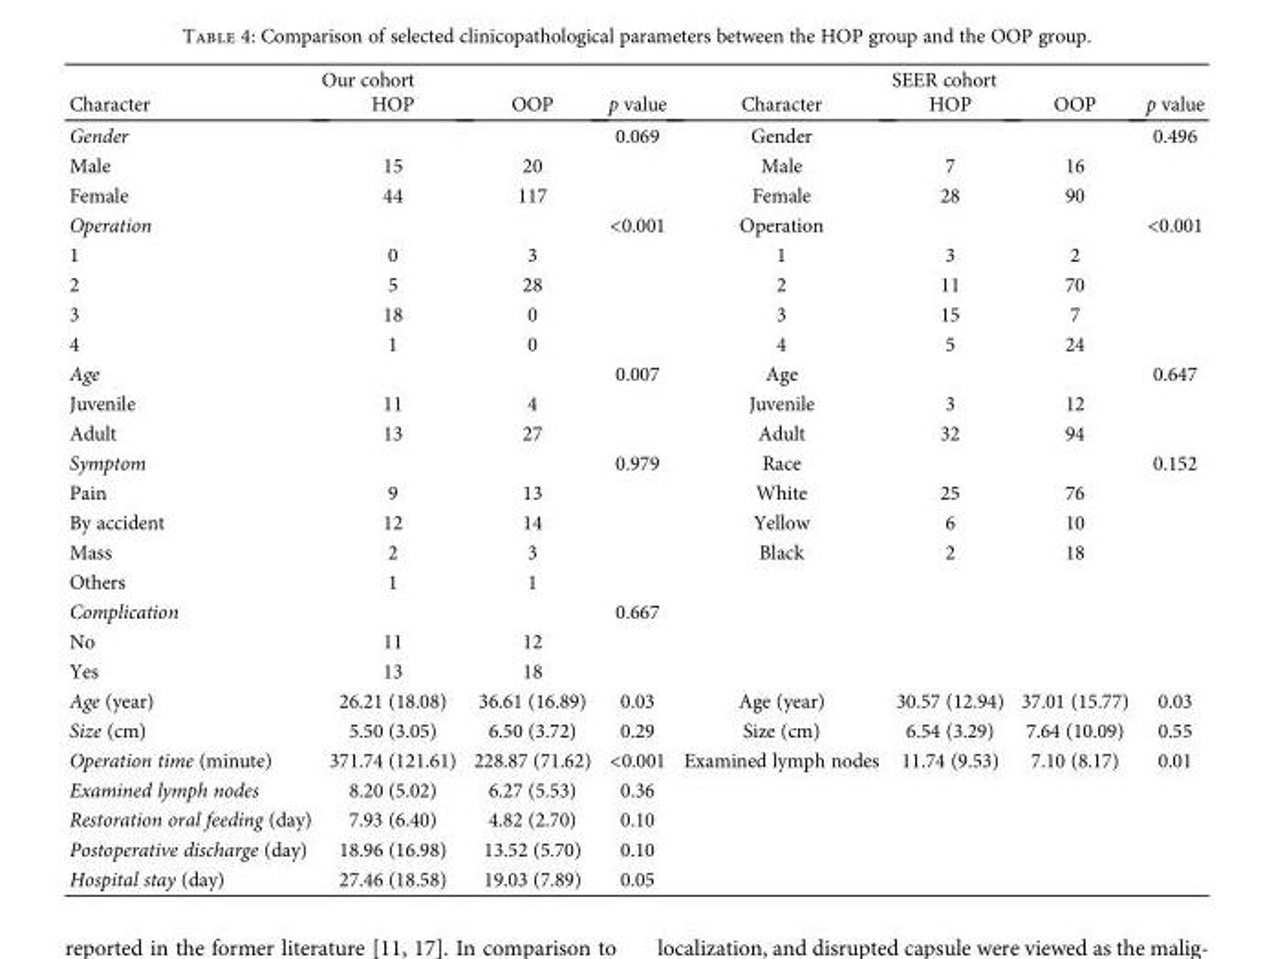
<table><thead><tr><td colspan="4">Our cohort</td><td colspan="4">SEER cohort</td></tr><tr><td>Character</td><td>HOP</td><td>OOP</td><td>p value</td><td>Character</td><td>HOP</td><td>OOP</td><td>p value</td></tr></thead><tbody><tr><td>Gender</td><td></td><td></td><td>0.069</td><td>Gender</td><td></td><td></td><td>0.496</td></tr><tr><td>Male</td><td>15</td><td>20</td><td></td><td>Male</td><td>7</td><td>16</td><td></td></tr><tr><td>Female</td><td>44</td><td>117</td><td></td><td>Female</td><td>28</td><td>90</td><td></td></tr><tr><td>Operation</td><td></td><td></td><td>&lt;0.001</td><td>Operation</td><td></td><td></td><td>&lt;0.001</td></tr><tr><td>1</td><td>0</td><td>3</td><td></td><td>1</td><td>3</td><td>2</td><td></td></tr><tr><td>2</td><td>5</td><td>28</td><td></td><td>2</td><td>11</td><td>70</td><td></td></tr><tr><td>3</td><td>18</td><td>0</td><td></td><td>3</td><td>15</td><td>7</td><td></td></tr><tr><td>4</td><td>1</td><td>0</td><td></td><td>4</td><td>5</td><td>24</td><td></td></tr><tr><td>Age</td><td></td><td></td><td>0.007</td><td>Age</td><td></td><td></td><td>0.647</td></tr><tr><td>Juvenile</td><td>11</td><td>4</td><td></td><td>Juvenile</td><td>3</td><td>12</td><td></td></tr><tr><td>Adult</td><td>13</td><td>27</td><td></td><td>Adult</td><td>32</td><td>94</td><td></td></tr><tr><td>Symptom</td><td></td><td></td><td>0.979</td><td>Race</td><td></td><td></td><td>0.152</td></tr><tr><td>Pain</td><td>9</td><td>13</td><td></td><td>White</td><td>25</td><td>76</td><td></td></tr><tr><td>By accident</td><td>12</td><td>14</td><td></td><td>Yellow</td><td>6</td><td>10</td><td></td></tr><tr><td>Mass</td><td>2</td><td>3</td><td></td><td>Black</td><td>2</td><td>18</td><td></td></tr><tr><td>Others</td><td>1</td><td>1</td><td></td><td></td><td></td><td></td><td></td></tr><tr><td>Complication</td><td></td><td></td><td>0.667</td><td></td><td></td><td></td><td></td></tr><tr><td>No</td><td>11</td><td>12</td><td></td><td></td><td></td><td></td><td></td></tr><tr><td>Yes</td><td>13</td><td>18</td><td></td><td></td><td></td><td></td><td></td></tr><tr><td>Age (year)</td><td>26.21 (18.08)</td><td>36.61 (16.89)</td><td>0.03</td><td>Age (year)</td><td>30.57 (12.94)</td><td>37.01 (15.77)</td><td>0.03</td></tr><tr><td>Size (cm)</td><td>5.50 (3.05)</td><td>6.50 (3.72)</td><td>0.29</td><td>Size (cm)</td><td>6.54 (3.29)</td><td>7.64 (10.09)</td><td>0.55</td></tr><tr><td>Operation time (minute)</td><td>371.74 (121.61)</td><td>228.87 (71.62)</td><td>&lt;0.001</td><td>Examined lymph nodes</td><td>11.74 (9.53)</td><td>7.10 (8.17)</td><td>0.01</td></tr><tr><td>Examined lymph nodes</td><td>8.20 (5.02)</td><td>6.27 (5.53)</td><td>0.36</td><td></td><td></td><td></td><td></td></tr><tr><td>Restoration oral feeding (day)</td><td>7.93 (6.40)</td><td>4.82 (2.70)</td><td>0.10</td><td></td><td></td><td></td><td></td></tr><tr><td>Postoperative discharge (day)</td><td>18.96 (16.98)</td><td>13.52 (5.70)</td><td>0.10</td><td></td><td></td><td></td><td></td></tr><tr><td>Hospital stay (day)</td><td>27.46 (18.58)</td><td>19.03 (7.89)</td><td>0.05</td><td></td><td></td><td></td><td></td></tr></tbody></table>